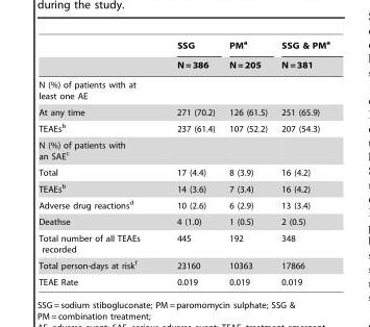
<table><thead><tr><td rowspan="2"></td><td rowspan="2">SSG N = 386</td><td rowspan="2">PM<sup>a</sup> N = 205</td><td rowspan="2">SSG &amp; PM<sup>a</sup> N = 381</td></tr><tr></tr></thead><tbody><tr><td colspan="4">N (%) of patients with at least one AE</td></tr><tr><td>At any time</td><td>271 (70.2)</td><td>126 (61.5)</td><td>251 (65.9)</td></tr><tr><td>TEAEs<sup>b</sup></td><td>237 (61.4)</td><td>107 (52.2)</td><td>207 (54.3)</td></tr><tr><td colspan="4">N (%) of patients with an SAE<sup>c</sup></td></tr><tr><td>Total</td><td>17 (4.4)</td><td>8 (3.9)</td><td>16 (4.2)</td></tr><tr><td>TEAEs<sup>b</sup></td><td>14 (3.6)</td><td>7 (3.4)</td><td>16 (4.2)</td></tr><tr><td>Adverse drug reactions<sup>d</sup></td><td>10 (2.6)</td><td>6 (2.9)</td><td>13 (3.4)</td></tr><tr><td>Deathse</td><td>4 (1.0)</td><td>1 (0.5)</td><td>2 (0.5)</td></tr><tr><td>Total number of all TEAEs recorded</td><td>445</td><td>192</td><td>348</td></tr><tr><td>Total person-days at risk<sup>f</sup></td><td>23160</td><td>10363</td><td>17866</td></tr><tr><td>TEAE Rate</td><td>0.019</td><td>0.019</td><td>0.019</td></tr></tbody></table>